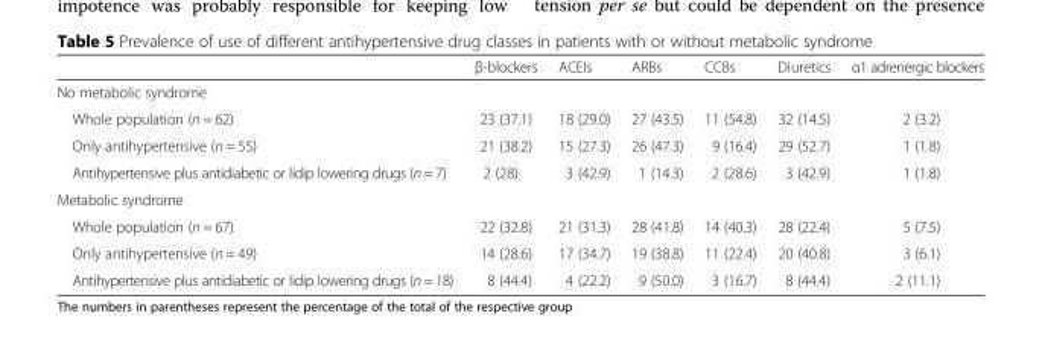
<table><thead><tr><td></td><td>β-blockers</td><td>ACEIs</td><td>ARBs</td><td>CCBs</td><td>Diuretics</td><td>α1 adrenergic blockers</td></tr></thead><tbody><tr><td colspan="7">No metabolic syndrome</td></tr><tr><td>Whole population (n = 62)</td><td>23 (37.1)</td><td>18 (29.0)</td><td>27 (43.5)</td><td>11 (54.8)</td><td>32 (14.5)</td><td>2 (3.2)</td></tr><tr><td>Only antihypertensive (n = 55)</td><td>21 (38.2)</td><td>15 (27.3)</td><td>26 (47.3)</td><td>9 (16.4)</td><td>29 (52.7)</td><td>1 (1.8)</td></tr><tr><td>Antihypertensive plus antidiabetic or lidip lowering drugs (n = 7)</td><td>2 (28)</td><td>3 (42.9)</td><td>1 (14.3)</td><td>2 (28.6)</td><td>3 (42.9)</td><td>1 (1.8)</td></tr><tr><td colspan="7">Metabolic syndrome</td></tr><tr><td>Whole population (n = 67)</td><td>22 (32.8)</td><td>21 (31.3)</td><td>28 (41.8)</td><td>14 (40.3)</td><td>28 (22.4)</td><td>5 (7.5)</td></tr><tr><td>Only antihypertensive (n = 49)</td><td>14 (28.6)</td><td>17 (34.7)</td><td>19 (38.8)</td><td>11 (22.4)</td><td>20 (40.8)</td><td>3 (6.1)</td></tr><tr><td>Antihypertensive plus antidiabetic or lidip lowering drugs (n = 18)</td><td>8 (44.4)</td><td>4 (22.2)</td><td>9 (50.0)</td><td>3 (16.7)</td><td>8 (44.4)</td><td>2 (11.1)</td></tr></tbody></table>